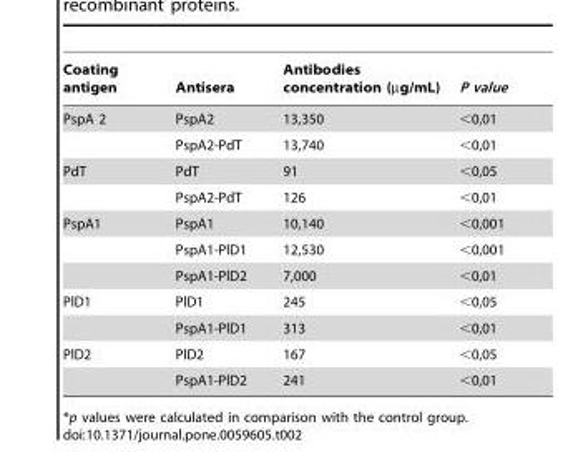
<table><thead><tr><td>Coating antigen</td><td>Antisera</td><td>Antibodies concentration (µg/mL)</td><td>P value</td></tr></thead><tbody><tr><td rowspan="2">PspA 2</td><td>PspA2</td><td>13,350</td><td>&lt;0,01</td></tr><tr><td>PspA2-PdT</td><td>13,740</td><td>&lt;0,01</td></tr><tr><td rowspan="2">PdT</td><td>PdT</td><td>91</td><td>&lt;0,05</td></tr><tr><td>PspA2-PdT</td><td>126</td><td>&lt;0,01</td></tr><tr><td rowspan="3">PspA1</td><td>PspA1</td><td>10,140</td><td>&lt;0,001</td></tr><tr><td>PspA1-PlD1</td><td>12,530</td><td>&lt;0,001</td></tr><tr><td>PspA1-PlD2</td><td>7,000</td><td>&lt;0,01</td></tr><tr><td rowspan="2">PlD1</td><td>PlD1</td><td>245</td><td>&lt;0,05</td></tr><tr><td>PspA1-PlD1</td><td>313</td><td>&lt;0,01</td></tr><tr><td rowspan="2">PlD2</td><td>PlD2</td><td>167</td><td>&lt;0,05</td></tr><tr><td>PspA1-PlD2</td><td>241</td><td>&lt;0,01</td></tr></tbody></table>